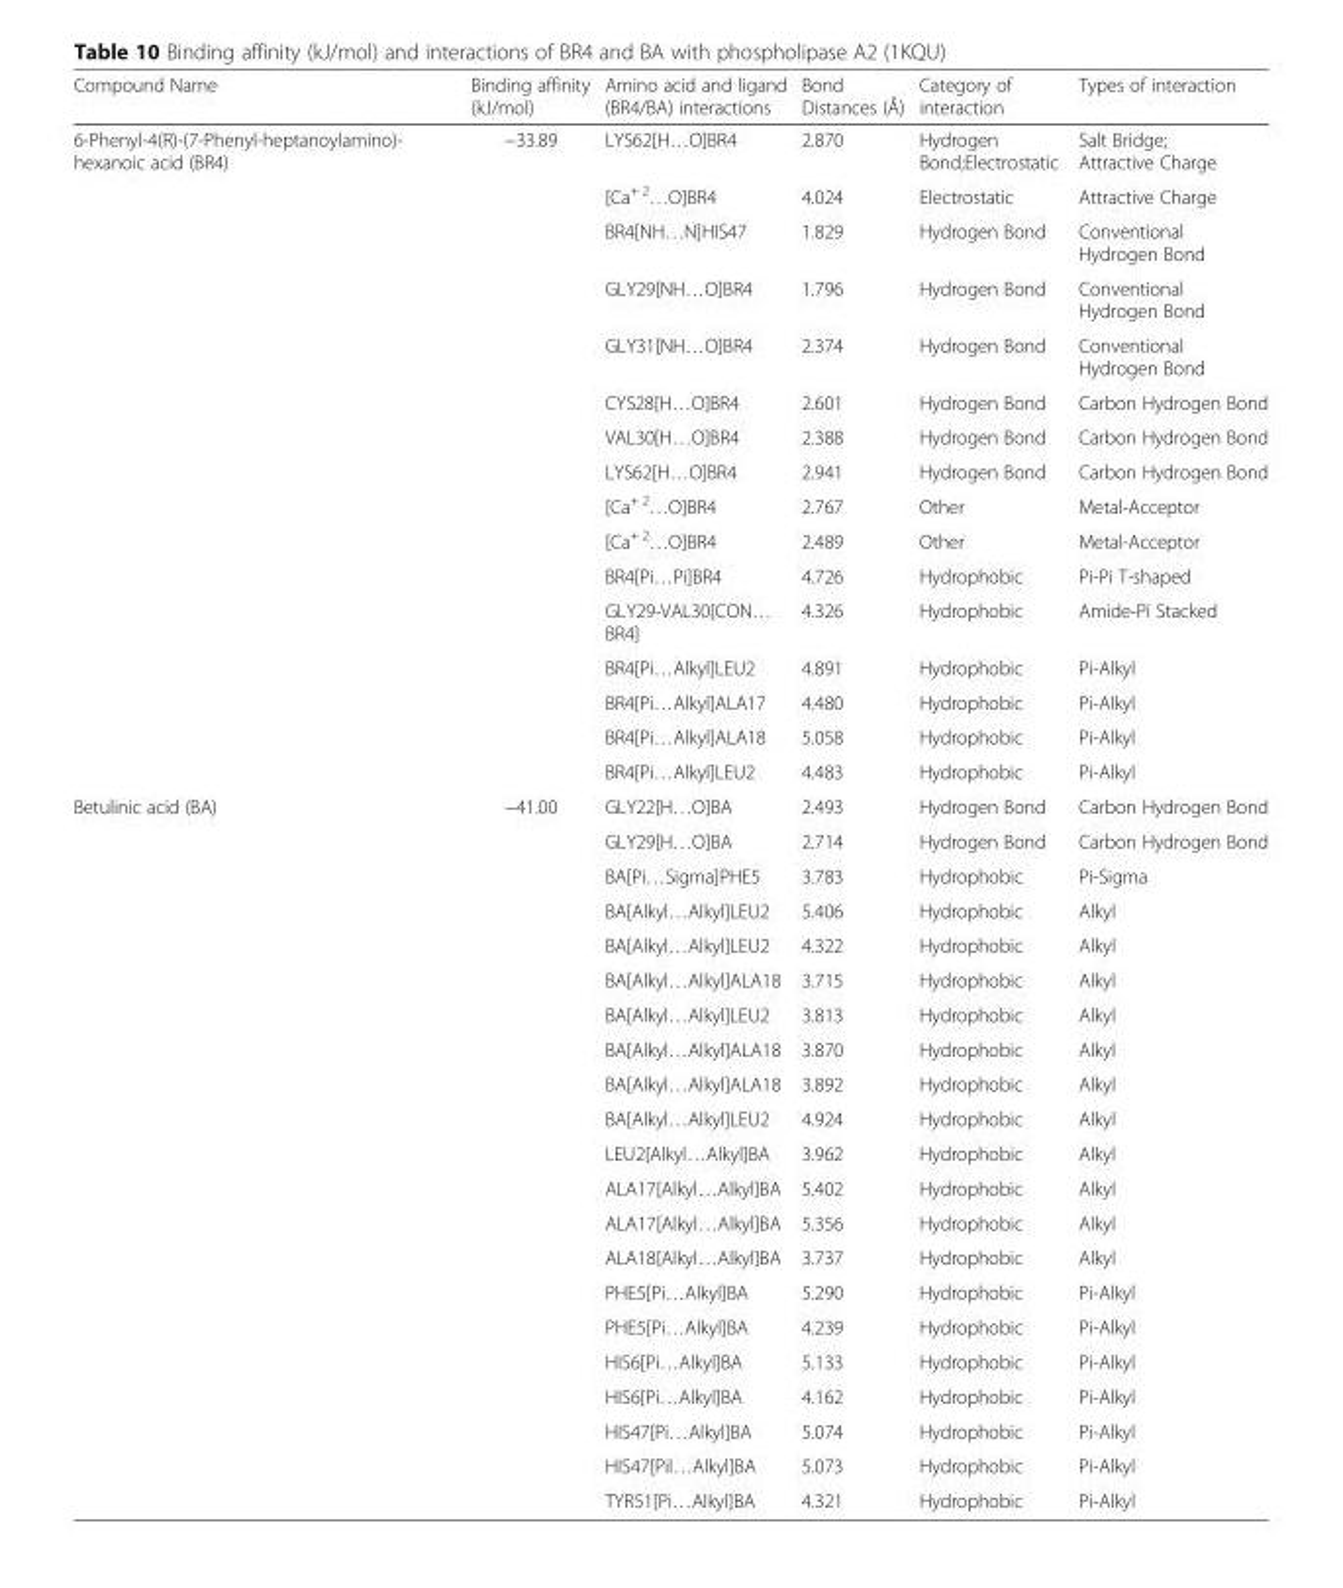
<table><thead><tr><td>Compound Name</td><td>Binding affinity (kJ/mol)</td><td>Amino acid and ligand (BR4/BA) interactions</td><td>Bond Distances (Å)</td><td>Category of interaction</td><td>Types of interaction</td></tr></thead><tbody><tr><td rowspan="16">6-Phenyl-4(R)-(7-Phenyl-heptanoylamino)- hexanoic acid (BR4)</td><td rowspan="16">−33.89</td><td>LYS62[H…O]BR4</td><td>2.870</td><td>Hydrogen Bond;Electrostatic</td><td>Salt Bridge; Attractive Charge</td></tr><tr><td>[Ca<sup>+ 2</sup>…O]BR4</td><td>4.024</td><td>Electrostatic</td><td>Attractive Charge</td></tr><tr><td>BR4[NH…N]HIS47</td><td>1.829</td><td>Hydrogen Bond</td><td>Conventional Hydrogen Bond</td></tr><tr><td>GLY29[NH…O]BR4</td><td>1.796</td><td>Hydrogen Bond</td><td>Conventional Hydrogen Bond</td></tr><tr><td>GLY31[NH…O]BR4</td><td>2.374</td><td>Hydrogen Bond</td><td>Conventional Hydrogen Bond</td></tr><tr><td>CYS28[H…O]BR4</td><td>2.601</td><td>Hydrogen Bond</td><td>Carbon Hydrogen Bond</td></tr><tr><td>VAL30[H…O]BR4</td><td>2.388</td><td>Hydrogen Bond</td><td>Carbon Hydrogen Bond</td></tr><tr><td>LYS62[H…O]BR4</td><td>2.941</td><td>Hydrogen Bond</td><td>Carbon Hydrogen Bond</td></tr><tr><td>[Ca<sup>+ 2</sup>…O]BR4</td><td>2.767</td><td>Other</td><td>Metal-Acceptor</td></tr><tr><td>[Ca<sup>+ 2</sup>…O]BR4</td><td>2.489</td><td>Other</td><td>Metal-Acceptor</td></tr><tr><td>BR4[Pi…Pi]BR4</td><td>4.726</td><td>Hydrophobic</td><td>Pi-Pi T-shaped</td></tr><tr><td>GLY29-VAL30[CON… BR4]</td><td>4.326</td><td>Hydrophobic</td><td>Amide-Pi Stacked</td></tr><tr><td>BR4[Pi…Alkyl]LEU2</td><td>4.891</td><td>Hydrophobic</td><td>Pi-Alkyl</td></tr><tr><td>BR4[Pi…Alkyl]ALA17</td><td>4.480</td><td>Hydrophobic</td><td>Pi-Alkyl</td></tr><tr><td>BR4[Pi…Alkyl]ALA18</td><td>5.058</td><td>Hydrophobic</td><td>Pi-Alkyl</td></tr><tr><td>BR4[Pi…Alkyl]LEU2</td><td>4.483</td><td>Hydrophobic</td><td>Pi-Alkyl</td></tr><tr><td rowspan="21">Betulinic acid (BA)</td><td rowspan="21">−41.00</td><td>GLY22[H…O]BA</td><td>2.493</td><td>Hydrogen Bond</td><td>Carbon Hydrogen Bond</td></tr><tr><td>GLY29[H…O]BA</td><td>2.714</td><td>Hydrogen Bond</td><td>Carbon Hydrogen Bond</td></tr><tr><td>BA[Pi…Sigma]PHE5</td><td>3.783</td><td>Hydrophobic</td><td>Pi-Sigma</td></tr><tr><td>BA[Alkyl…Alkyl]LEU2</td><td>5.406</td><td>Hydrophobic</td><td>Alkyl</td></tr><tr><td>BA[Alkyl…Alkyl]LEU2</td><td>4.322</td><td>Hydrophobic</td><td>Alkyl</td></tr><tr><td>BA[Alkyl…Alkyl]ALA18</td><td>3.715</td><td>Hydrophobic</td><td>Alkyl</td></tr><tr><td>BA[Alkyl…Alkyl]LEU2</td><td>3.813</td><td>Hydrophobic</td><td>Alkyl</td></tr><tr><td>BA[Alkyl…Alkyl]ALA18</td><td>3.870</td><td>Hydrophobic</td><td>Alkyl</td></tr><tr><td>BA[Alkyl…Alkyl]ALA18</td><td>3.892</td><td>Hydrophobic</td><td>Alkyl</td></tr><tr><td>BA[Alkyl…Alkyl]LEU2</td><td>4.924</td><td>Hydrophobic</td><td>Alkyl</td></tr><tr><td>LEU2[Alkyl…Alkyl]BA</td><td>3.962</td><td>Hydrophobic</td><td>Alkyl</td></tr><tr><td>ALA17[Alkyl…Alkyl]BA</td><td>5.402</td><td>Hydrophobic</td><td>Alkyl</td></tr><tr><td>ALA17[Alkyl…Alkyl]BA</td><td>5.356</td><td>Hydrophobic</td><td>Alkyl</td></tr><tr><td>ALA18[Alkyl…Alkyl]BA</td><td>3.737</td><td>Hydrophobic</td><td>Alkyl</td></tr><tr><td>PHE5[Pi…Alkyl]BA</td><td>5.290</td><td>Hydrophobic</td><td>Pi-Alkyl</td></tr><tr><td>PHE5[Pi…Alkyl]BA</td><td>4.239</td><td>Hydrophobic</td><td>Pi-Alkyl</td></tr><tr><td>HIS6[Pi…Alkyl]BA</td><td>5.133</td><td>Hydrophobic</td><td>Pi-Alkyl</td></tr><tr><td>HIS6[Pi…Alkyl]BA</td><td>4.162</td><td>Hydrophobic</td><td>Pi-Alkyl</td></tr><tr><td>HIS47[Pi…Alkyl]BA</td><td>5.074</td><td>Hydrophobic</td><td>Pi-Alkyl</td></tr><tr><td>HIS47[Pil…Alkyl]BA</td><td>5.073</td><td>Hydrophobic</td><td>Pi-Alkyl</td></tr><tr><td>TYR51[Pi…Alkyl]BA</td><td>4.321</td><td>Hydrophobic</td><td>Pi-Alkyl</td></tr></tbody></table>